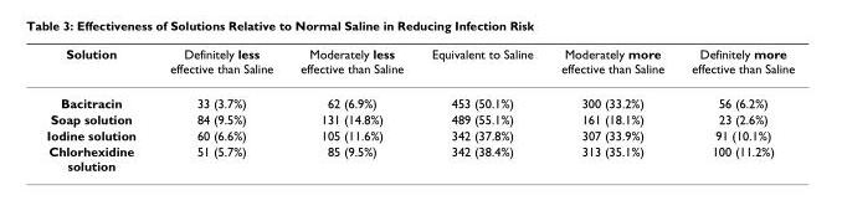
<table><thead><tr><td>Solution</td><td>Definitely less effective than Saline</td><td>Moderately less effective than Saline</td><td>Equivalent to Saline</td><td>Moderately more effective than Saline</td><td>Definitely more effective than Saline</td></tr></thead><tbody><tr><td>Bacitracin</td><td>33 (3.7%)</td><td>62 (6.9%)</td><td>453 (50.1%)</td><td>300 (33.2%)</td><td>56 (6.2%)</td></tr><tr><td>Soap solution</td><td>84 (9.5%)</td><td>131 (14.8%)</td><td>489 (55.1%)</td><td>161 (18.1%)</td><td>23 (2.6%)</td></tr><tr><td>Iodine solution</td><td>60 (6.6%)</td><td>105 (11.6%)</td><td>342 (37.8%)</td><td>307 (33.9%)</td><td>91 (10.1%)</td></tr><tr><td>Chlorhexidine solution</td><td>51 (5.7%)</td><td>85 (9.5%)</td><td>342 (38.4%)</td><td>313 (35.1%)</td><td>100 (11.2%)</td></tr></tbody></table>